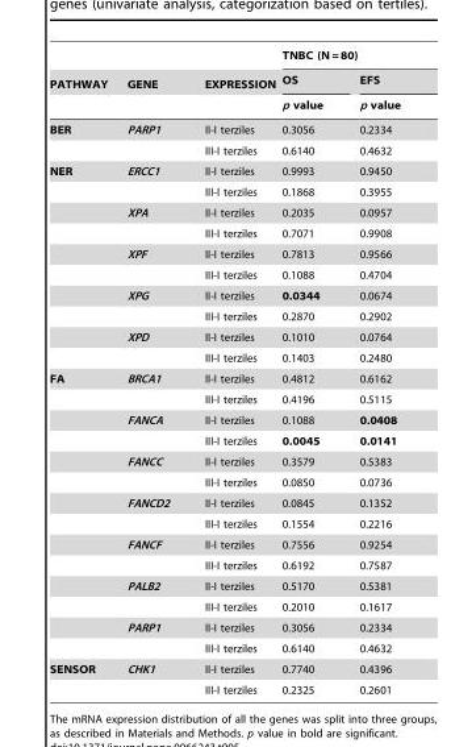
<table><thead><tr><td rowspan="3">PATHWAY</td><td rowspan="3">GENE</td><td rowspan="3">EXPRESSION</td><td colspan="2">TNBC (N = 80)</td></tr><tr><td rowspan="2">OS p value</td><td rowspan="2">EFS p value</td></tr><tr></tr></thead><tbody><tr><td rowspan="2">BER</td><td>PARP1</td><td>II-I terziles</td><td>0.3056</td><td>0.2334</td></tr><tr><td></td><td>III-I terziles</td><td>0.6140</td><td>0.4632</td></tr><tr><td rowspan="10">NER</td><td>ERCC1</td><td>II-I terziles</td><td>0.9993</td><td>0.9450</td></tr><tr><td></td><td>III-I terziles</td><td>0.1868</td><td>0.3955</td></tr><tr><td>XPA</td><td>II-I terziles</td><td>0.2035</td><td>0.0957</td></tr><tr><td></td><td>III-I terziles</td><td>0.7071</td><td>0.9908</td></tr><tr><td>XPF</td><td>II-I terziles</td><td>0.7813</td><td>0.9566</td></tr><tr><td></td><td>III-I terziles</td><td>0.1088</td><td>0.4704</td></tr><tr><td>XPG</td><td>II-I terziles</td><td>0.0344</td><td>0.0674</td></tr><tr><td></td><td>III-I terziles</td><td>0.2870</td><td>0.2902</td></tr><tr><td>XPD</td><td>II-I terziles</td><td>0.1010</td><td>0.0764</td></tr><tr><td></td><td>III-I terziles</td><td>0.1403</td><td>0.2480</td></tr><tr><td rowspan="14">FA</td><td>BRCA1</td><td>II-I terziles</td><td>0.4812</td><td>0.6162</td></tr><tr><td></td><td>III-I terziles</td><td>0.4196</td><td>0.5115</td></tr><tr><td>FANCA</td><td>II-I terziles</td><td>0.1088</td><td>0.0408</td></tr><tr><td></td><td>III-I terziles</td><td>0.0045</td><td>0.0141</td></tr><tr><td>FANCC</td><td>II-I terziles</td><td>0.3579</td><td>0.5383</td></tr><tr><td></td><td>III-I terziles</td><td>0.0850</td><td>0.0736</td></tr><tr><td>FANCD2</td><td>II-I terziles</td><td>0.0845</td><td>0.1352</td></tr><tr><td></td><td>III-I terziles</td><td>0.1554</td><td>0.2216</td></tr><tr><td>FANCF</td><td>II-I terziles</td><td>0.7556</td><td>0.9254</td></tr><tr><td></td><td>III-I terziles</td><td>0.6192</td><td>0.7587</td></tr><tr><td>PALB2</td><td>II-I terziles</td><td>0.5170</td><td>0.5381</td></tr><tr><td></td><td>III-I terziles</td><td>0.2010</td><td>0.1617</td></tr><tr><td>PARP1</td><td>II-I terziles</td><td>0.3056</td><td>0.2334</td></tr><tr><td></td><td>III-I terziles</td><td>0.6140</td><td>0.4632</td></tr><tr><td rowspan="2">SENSOR</td><td>CHK1</td><td>II-I terziles</td><td>0.7740</td><td>0.4396</td></tr><tr><td></td><td>III-I terziles</td><td>0.2325</td><td>0.2601</td></tr></tbody></table>